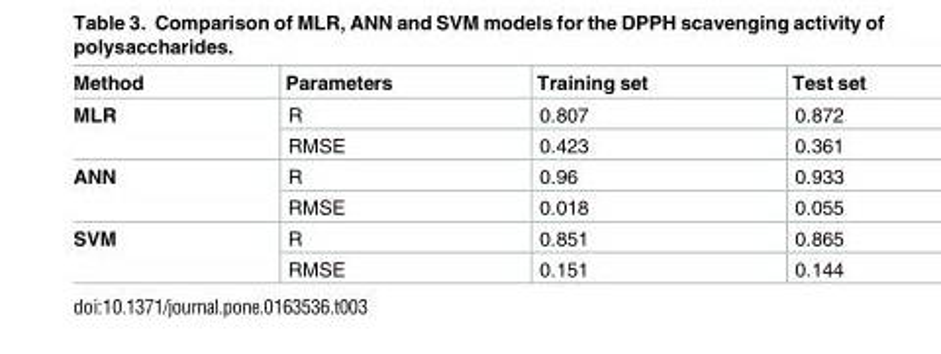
<table><thead><tr><td>Method</td><td>Parameters</td><td>Training set</td><td>Test set</td></tr></thead><tbody><tr><td rowspan="2">MLR</td><td>R</td><td>0.807</td><td>0.872</td></tr><tr><td>RMSE</td><td>0.423</td><td>0.361</td></tr><tr><td rowspan="2">ANN</td><td>R</td><td>0.96</td><td>0.933</td></tr><tr><td>RMSE</td><td>0.018</td><td>0.055</td></tr><tr><td rowspan="2">SVM</td><td>R</td><td>0.851</td><td>0.865</td></tr><tr><td>RMSE</td><td>0.151</td><td>0.144</td></tr></tbody></table>